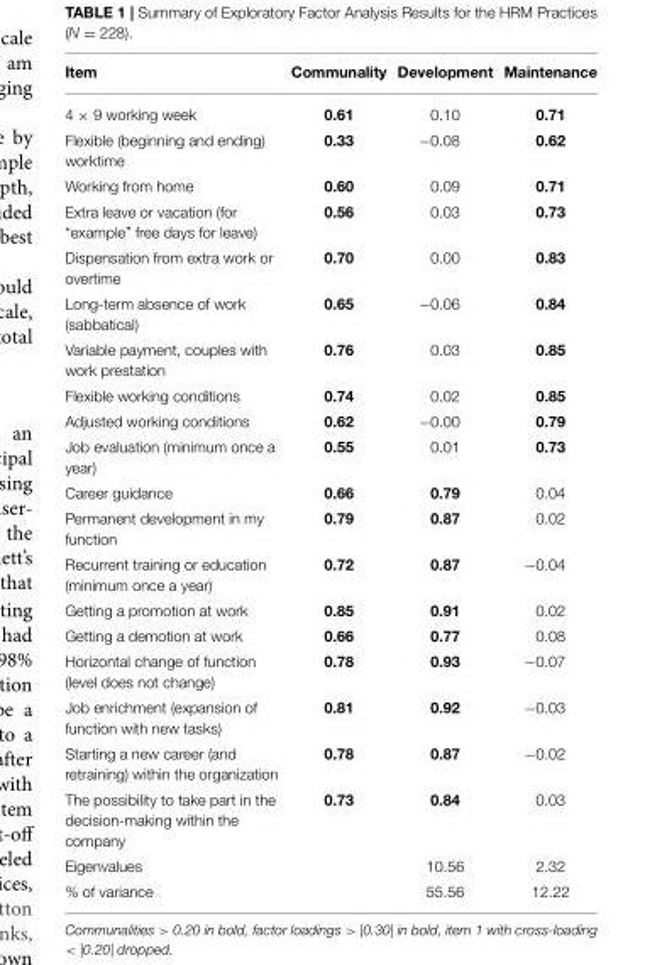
<table><thead><tr><td>Item</td><td>Communality</td><td>Development</td><td>Maintenance</td></tr></thead><tbody><tr><td>4 × 9 working week</td><td>0.61</td><td>0.10</td><td>0.71</td></tr><tr><td>Flexible (beginning and ending) worktime</td><td>0.33</td><td>−0.08</td><td>0.62</td></tr><tr><td>Working from home</td><td>0.60</td><td>0.09</td><td>0.71</td></tr><tr><td>Extra leave or vacation (for “example” free days for leave)</td><td>0.56</td><td>0.03</td><td>0.73</td></tr><tr><td>Dispensation from extra work or overtime</td><td>0.70</td><td>0.00</td><td>0.83</td></tr><tr><td>Long-term absence of work (sabbatical)</td><td>0.65</td><td>−0.06</td><td>0.84</td></tr><tr><td>Variable payment, couples with work prestation</td><td>0.76</td><td>0.03</td><td>0.85</td></tr><tr><td>Flexible working conditions</td><td>0.74</td><td>0.02</td><td>0.85</td></tr><tr><td>Adjusted working conditions</td><td>0.62</td><td>−0.00</td><td>0.79</td></tr><tr><td>Job evaluation (minimum once a year)</td><td>0.55</td><td>0.01</td><td>0.73</td></tr><tr><td>Career guidance</td><td>0.66</td><td>0.79</td><td>0.04</td></tr><tr><td>Permanent development in my function</td><td>0.79</td><td>0.87</td><td>0.02</td></tr><tr><td>Recurrent training or education (minimum once a year)</td><td>0.72</td><td>0.87</td><td>−0.04</td></tr><tr><td>Getting a promotion at work</td><td>0.85</td><td>0.91</td><td>0.02</td></tr><tr><td>Getting a demotion at work</td><td>0.66</td><td>0.77</td><td>0.08</td></tr><tr><td>Horizontal change of function (level does not change)</td><td>0.78</td><td>0.93</td><td>−0.07</td></tr><tr><td>Job enrichment (expansion of function with new tasks)</td><td>0.81</td><td>0.92</td><td>−0.03</td></tr><tr><td>Starting a new career (and retraining) within the organization</td><td>0.78</td><td>0.87</td><td>−0.02</td></tr><tr><td>The possibility to take part in the decision-making within the company</td><td>0.73</td><td>0.84</td><td>0.03</td></tr><tr><td>Eigenvalues</td><td></td><td>10.56</td><td>2.32</td></tr><tr><td>% of variance</td><td></td><td>55.56</td><td>12.22</td></tr></tbody></table>